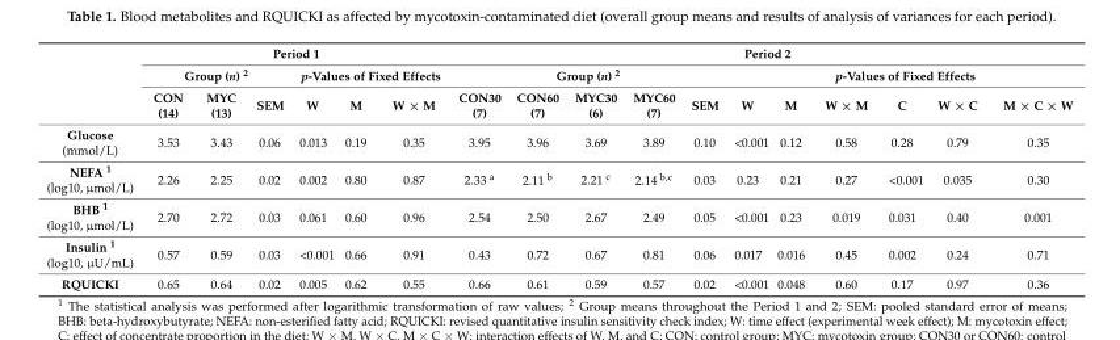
<table><thead><tr><td rowspan="3"></td><td colspan="6">Period 1</td><td colspan="11">Period 2</td></tr><tr><td colspan="3">Group (n) <sup>2</sup></td><td colspan="3">p-Values of Fixed Effects</td><td colspan="5">Group (n) <sup>2</sup></td><td colspan="6">p-Values of Fixed Effects</td></tr><tr><td>CON (14)</td><td>MYC (13)</td><td>SEM</td><td>W</td><td>M</td><td>W × M</td><td>CON30 (7)</td><td>CON60 (7)</td><td>MYC30 (6)</td><td>MYC60 (7)</td><td>SEM</td><td>W</td><td>M</td><td>W × M</td><td>C</td><td>W × C</td><td>M × C × W</td></tr></thead><tbody><tr><td>Glucose (mmol/L)</td><td>3.53</td><td>3.43</td><td>0.06</td><td>0.013</td><td>0.19</td><td>0.35</td><td>3.95</td><td>3.96</td><td>3.69</td><td>3.89</td><td>0.10</td><td>&lt;0.001</td><td>0.12</td><td>0.58</td><td>0.28</td><td>0.79</td><td>0.35</td></tr><tr><td>NEFA <sup>1</sup> (log10, µmol/L)</td><td>2.26</td><td>2.25</td><td>0.02</td><td>0.002</td><td>0.80</td><td>0.87</td><td>2.33 <sup>a</sup></td><td>2.11 <sup>b</sup></td><td>2.21 <sup>c</sup></td><td>2.14 <sup>b,c</sup></td><td>0.03</td><td>0.23</td><td>0.21</td><td>0.27</td><td>&lt;0.001</td><td>0.035</td><td>0.30</td></tr><tr><td>BHB <sup>1</sup> (log10, µmol/L)</td><td>2.70</td><td>2.72</td><td>0.03</td><td>0.061</td><td>0.60</td><td>0.96</td><td>2.54</td><td>2.50</td><td>2.67</td><td>2.49</td><td>0.05</td><td>&lt;0.001</td><td>0.23</td><td>0.019</td><td>0.031</td><td>0.40</td><td>0.001</td></tr><tr><td>Insulin <sup>1</sup> (log10, µU/mL)</td><td>0.57</td><td>0.59</td><td>0.03</td><td>&lt;0.001</td><td>0.66</td><td>0.91</td><td>0.43</td><td>0.72</td><td>0.67</td><td>0.81</td><td>0.06</td><td>0.017</td><td>0.016</td><td>0.45</td><td>0.002</td><td>0.24</td><td>0.71</td></tr><tr><td>RQUICKI</td><td>0.65</td><td>0.64</td><td>0.02</td><td>0.005</td><td>0.62</td><td>0.55</td><td>0.66</td><td>0.61</td><td>0.59</td><td>0.57</td><td>0.02</td><td>&lt;0.001</td><td>0.048</td><td>0.60</td><td>0.17</td><td>0.97</td><td>0.36</td></tr></tbody></table>